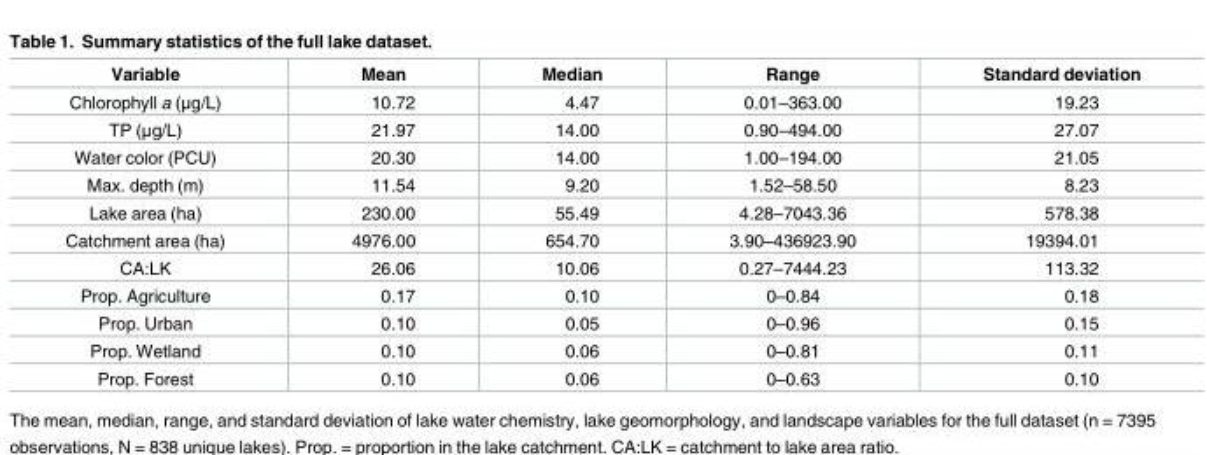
<table><thead><tr><td>Variable</td><td>Mean</td><td>Median</td><td>Range</td><td>Standard deviation</td></tr></thead><tbody><tr><td>Chlorophyll a (μg/L)</td><td>10.72</td><td>4.47</td><td>0.01–363.00</td><td>19.23</td></tr><tr><td>TP (μg/L)</td><td>21.97</td><td>14.00</td><td>0.90–494.00</td><td>27.07</td></tr><tr><td>Water color (PCU)</td><td>20.30</td><td>14.00</td><td>1.00–194.00</td><td>21.05</td></tr><tr><td>Max. depth (m)</td><td>11.54</td><td>9.20</td><td>1.52–58.50</td><td>8.23</td></tr><tr><td>Lake area (ha)</td><td>230.00</td><td>55.49</td><td>4.28–7043.36</td><td>578.38</td></tr><tr><td>Catchment area (ha)</td><td>4976.00</td><td>654.70</td><td>3.90–436923.90</td><td>19394.01</td></tr><tr><td>CA:LK</td><td>26.06</td><td>10.06</td><td>0.27–7444.23</td><td>113.32</td></tr><tr><td>Prop. Agriculture</td><td>0.17</td><td>0.10</td><td>0–0.84</td><td>0.18</td></tr><tr><td>Prop. Urban</td><td>0.10</td><td>0.05</td><td>0–0.96</td><td>0.15</td></tr><tr><td>Prop. Wetland</td><td>0.10</td><td>0.06</td><td>0–0.81</td><td>0.11</td></tr><tr><td>Prop. Forest</td><td>0.10</td><td>0.06</td><td>0–0.63</td><td>0.10</td></tr></tbody></table>